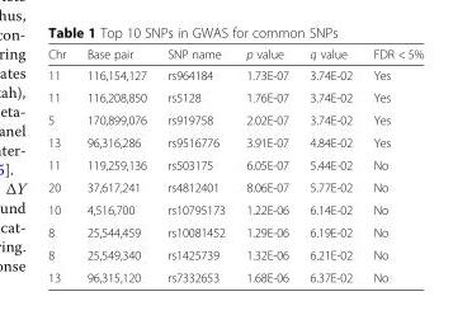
<table><thead><tr><td>Chr</td><td>Base pair</td><td>SNP name</td><td>p value</td><td>q value</td><td>FDR &lt; 5%</td></tr></thead><tbody><tr><td>11</td><td>116,154,127</td><td>rs964184</td><td>1.73E-07</td><td>3.74E-02</td><td>Yes</td></tr><tr><td>11</td><td>116,208,850</td><td>rs5128</td><td>1.76E-07</td><td>3.74E-02</td><td>Yes</td></tr><tr><td>5</td><td>170,899,076</td><td>rs919758</td><td>2.02E-07</td><td>3.74E-02</td><td>Yes</td></tr><tr><td>13</td><td>96,316,286</td><td>rs9516776</td><td>3.91E-07</td><td>4.84E-02</td><td>Yes</td></tr><tr><td>11</td><td>119,259,136</td><td>rs503175</td><td>6.05E-07</td><td>5.44E-02</td><td>No</td></tr><tr><td>20</td><td>37,617,241</td><td>rs4812401</td><td>8.06E-07</td><td>5.77E-02</td><td>No</td></tr><tr><td>10</td><td>4,516,700</td><td>rs10795173</td><td>1.22E-06</td><td>6.14E-02</td><td>No</td></tr><tr><td>8</td><td>25,544,459</td><td>rs10081452</td><td>1.29E-06</td><td>6.19E-02</td><td>No</td></tr><tr><td>8</td><td>25,549,340</td><td>rs1425739</td><td>1.32E-06</td><td>6.21E-02</td><td>No</td></tr><tr><td>13</td><td>96,315,120</td><td>rs7332653</td><td>1.68E-06</td><td>6.37E-02</td><td>No</td></tr></tbody></table>